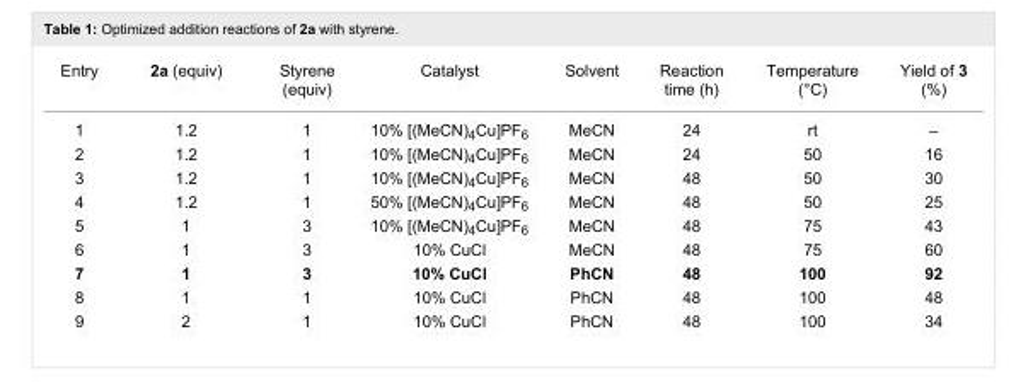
<table><tbody><tr><td>Entry</td><td>2a (equiv)</td><td>Styrene (equiv)</td><td>Catalyst</td><td>Solvent</td><td>Reaction time (h)</td><td>Temperature (°C)</td><td>Yield of 3 (%)</td></tr><tr><td>1</td><td>1.2</td><td>1</td><td>10% [(MeCN)<sub>4</sub>Cu]PF<sub>6</sub></td><td>MeCN</td><td>24</td><td>rt</td><td>–</td></tr><tr><td>2</td><td>1.2</td><td>1</td><td>10% [(MeCN)<sub>4</sub>Cu]PF<sub>6</sub></td><td>MeCN</td><td>24</td><td>50</td><td>16</td></tr><tr><td>3</td><td>1.2</td><td>1</td><td>10% [(MeCN)<sub>4</sub>Cu]PF<sub>6</sub></td><td>MeCN</td><td>48</td><td>50</td><td>30</td></tr><tr><td>4</td><td>1.2</td><td>1</td><td>50% [(MeCN)<sub>4</sub>Cu]PF<sub>6</sub></td><td>MeCN</td><td>48</td><td>50</td><td>25</td></tr><tr><td>5</td><td>1</td><td>3</td><td>10% [(MeCN)<sub>4</sub>Cu]PF<sub>6</sub></td><td>MeCN</td><td>48</td><td>75</td><td>43</td></tr><tr><td>6</td><td>1</td><td>3</td><td>10% CuCl</td><td>MeCN</td><td>48</td><td>75</td><td>60</td></tr><tr><td>7</td><td>1</td><td>3</td><td>10% CuCl</td><td>PhCN</td><td>48</td><td>100</td><td>92</td></tr><tr><td>8</td><td>1</td><td>1</td><td>10% CuCl</td><td>PhCN</td><td>48</td><td>100</td><td>48</td></tr><tr><td>9</td><td>2</td><td>1</td><td>10% CuCl</td><td>PhCN</td><td>48</td><td>100</td><td>34</td></tr></tbody></table>